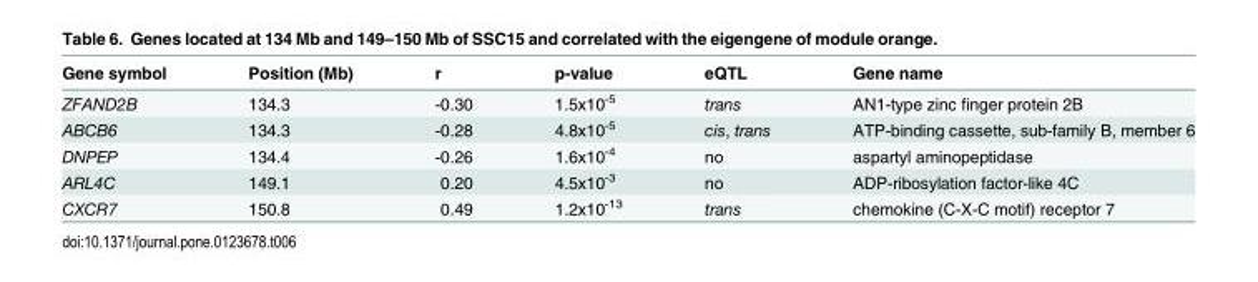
<table><thead><tr><td>Gene symbol</td><td>Position (Mb)</td><td>r</td><td>p-value</td><td>eQTL</td><td>Gene name</td></tr></thead><tbody><tr><td>ZFAND2B</td><td>134.3</td><td>-0.30</td><td>1.5x10<sup>-5</sup></td><td>trans</td><td>AN1-type zinc finger protein 2B</td></tr><tr><td>ABCB6</td><td>134.3</td><td>-0.28</td><td>4.8x10<sup>-5</sup></td><td>cis, trans</td><td>ATP-binding cassette, sub-family B, member 6</td></tr><tr><td>DNPEP</td><td>134.4</td><td>-0.26</td><td>1.6x10<sup>-4</sup></td><td>no</td><td>aspartyl aminopeptidase</td></tr><tr><td>ARL4C</td><td>149.1</td><td>0.20</td><td>4.5x10<sup>-3</sup></td><td>no</td><td>ADP-ribosylation factor-like 4C</td></tr><tr><td>CXCR7</td><td>150.8</td><td>0.49</td><td>1.2x10<sup>-13</sup></td><td>trans</td><td>chemokine (C-X-C motif) receptor 7</td></tr></tbody></table>